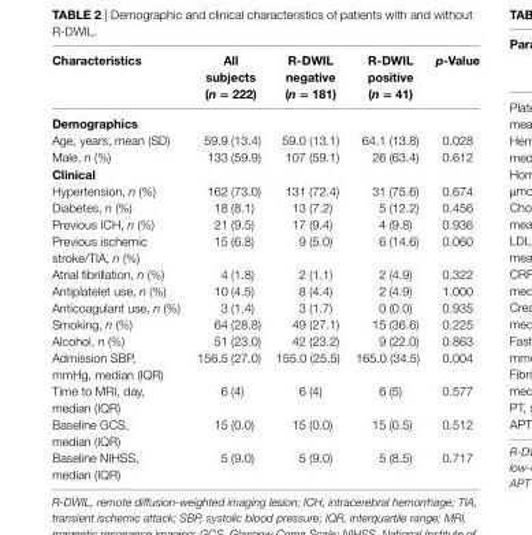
<table><thead><tr><td>characteristics</td><td>all subjects (n = 222)</td><td>r-DWil negative (n = 181)</td><td>r-DWil positive (n = 41)</td><td>p-Value</td></tr></thead><tbody><tr><td colspan="5">Demographics</td></tr><tr><td>Age, years, mean (SD)</td><td>59.9 (13.4)</td><td>59.0 (13.1)</td><td>64.1 (13.8)</td><td>0.028</td></tr><tr><td>Male, n (%)</td><td>133 (59.9)</td><td>107 (59.1)</td><td>26 (63.4)</td><td>0.612</td></tr><tr><td colspan="5">clinical</td></tr><tr><td>Hypertension, n (%)</td><td>162 (73.0)</td><td>131 (72.4)</td><td>31 (75.6)</td><td>0.674</td></tr><tr><td>Diabetes, n (%)</td><td>18 (8.1)</td><td>13 (7.2)</td><td>5 (12.2)</td><td>0.456</td></tr><tr><td>Previous ICH, n (%)</td><td>21 (9.5)</td><td>17 (9.4)</td><td>4 (9.8)</td><td>0.936</td></tr><tr><td>Previous ischemic stroke/TIA, n (%)</td><td>15 (6.8)</td><td>9 (5.0)</td><td>6 (14.6)</td><td>0.060</td></tr><tr><td>Atrial fibrillation, n (%)</td><td>4 (1.8)</td><td>2 (1.1)</td><td>2 (4.9)</td><td>0.322</td></tr><tr><td>Antiplatelet use, n (%)</td><td>10 (4.5)</td><td>8 (4.4)</td><td>2 (4.9)</td><td>1.000</td></tr><tr><td>Anticoagulant use, n (%)</td><td>3 (1.4)</td><td>3 (1.7)</td><td>0 (0.0)</td><td>0.935</td></tr><tr><td>Smoking, n (%)</td><td>64 (28.8)</td><td>49 (27.1)</td><td>15 (36.6)</td><td>0.225</td></tr><tr><td>Alcohol, n (%)</td><td>51 (23.0)</td><td>42 (23.2)</td><td>9 (22.0)</td><td>0.863</td></tr><tr><td>Admission SBP, mmHg, median (IQR)</td><td>156.5 (27.0)</td><td>155.0 (25.5)</td><td>165.0 (34.5)</td><td>0.004</td></tr><tr><td>Time to MRI, day, median (IQR)</td><td>6 (4)</td><td>6 (4)</td><td>6 (5)</td><td>0.577</td></tr><tr><td>Baseline GCS, median (IQR)</td><td>15 (0.0)</td><td>15 (0.0)</td><td>15 (0.5)</td><td>0.512</td></tr><tr><td>Baseline NIHSS, median (IQR)</td><td>5 (9.0)</td><td>5 (9.0)</td><td>5 (8.5)</td><td>0.717</td></tr></tbody></table>